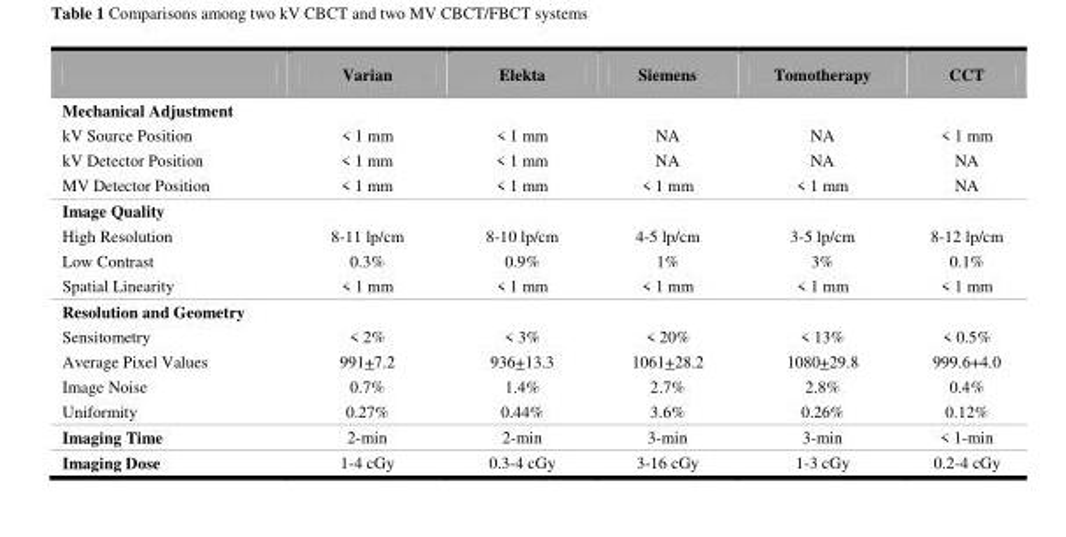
<table><thead><tr><td></td><td>Varian</td><td>Elekta</td><td>Siemens</td><td>Tomotherapy</td><td>CCT</td></tr></thead><tbody><tr><td colspan="6">Mechanical Adjustment</td></tr><tr><td>kV Source Position</td><td>&lt; 1 mm</td><td>&lt; 1 mm</td><td>NA</td><td>NA</td><td>&lt; 1 mm</td></tr><tr><td>kV Detector Position</td><td>&lt; 1 mm</td><td>&lt; 1 mm</td><td>NA</td><td>NA</td><td>NA</td></tr><tr><td>MV Detector Position</td><td>&lt; 1 mm</td><td>&lt; 1 mm</td><td>&lt; 1 mm</td><td>&lt; 1 mm</td><td>NA</td></tr><tr><td colspan="6">Image Quality</td></tr><tr><td>High Resolution</td><td>8-11 lp/cm</td><td>8-10 lp/cm</td><td>4-5 lp/cm</td><td>3-5 lp/cm</td><td>8-12 lp/cm</td></tr><tr><td>Low Contrast</td><td>0.3%</td><td>0.9%</td><td>1%</td><td>3%</td><td>0.1%</td></tr><tr><td>Spatial Linearity</td><td>&lt; 1 mm</td><td>&lt; 1 mm</td><td>&lt; 1 mm</td><td>&lt; 1 mm</td><td>&lt; 1 mm</td></tr><tr><td colspan="6">Resolution and Geometry</td></tr><tr><td>Sensitometry</td><td>&lt; 2%</td><td>&lt; 3%</td><td>&lt; 20%</td><td>&lt; 13%</td><td>&lt; 0.5%</td></tr><tr><td>Average Pixel Values</td><td>991+7.2</td><td>936+13.3</td><td>1061+28.2</td><td>1080+29.8</td><td>999.6+4.0</td></tr><tr><td>Image Noise</td><td>0.7%</td><td>1.4%</td><td>2.7%</td><td>2.8%</td><td>0.4%</td></tr><tr><td>Uniformity</td><td>0.27%</td><td>0.44%</td><td>3.6%</td><td>0.26%</td><td>0.12%</td></tr><tr><td>Imaging Time</td><td>2-min</td><td>2-min</td><td>3-min</td><td>3-min</td><td>&lt; 1-min</td></tr><tr><td>Imaging Dose</td><td>1-4 cGy</td><td>0.3-4 cGy</td><td>3-16 cGy</td><td>1-3 cGy</td><td>0.2-4 cGy</td></tr></tbody></table>